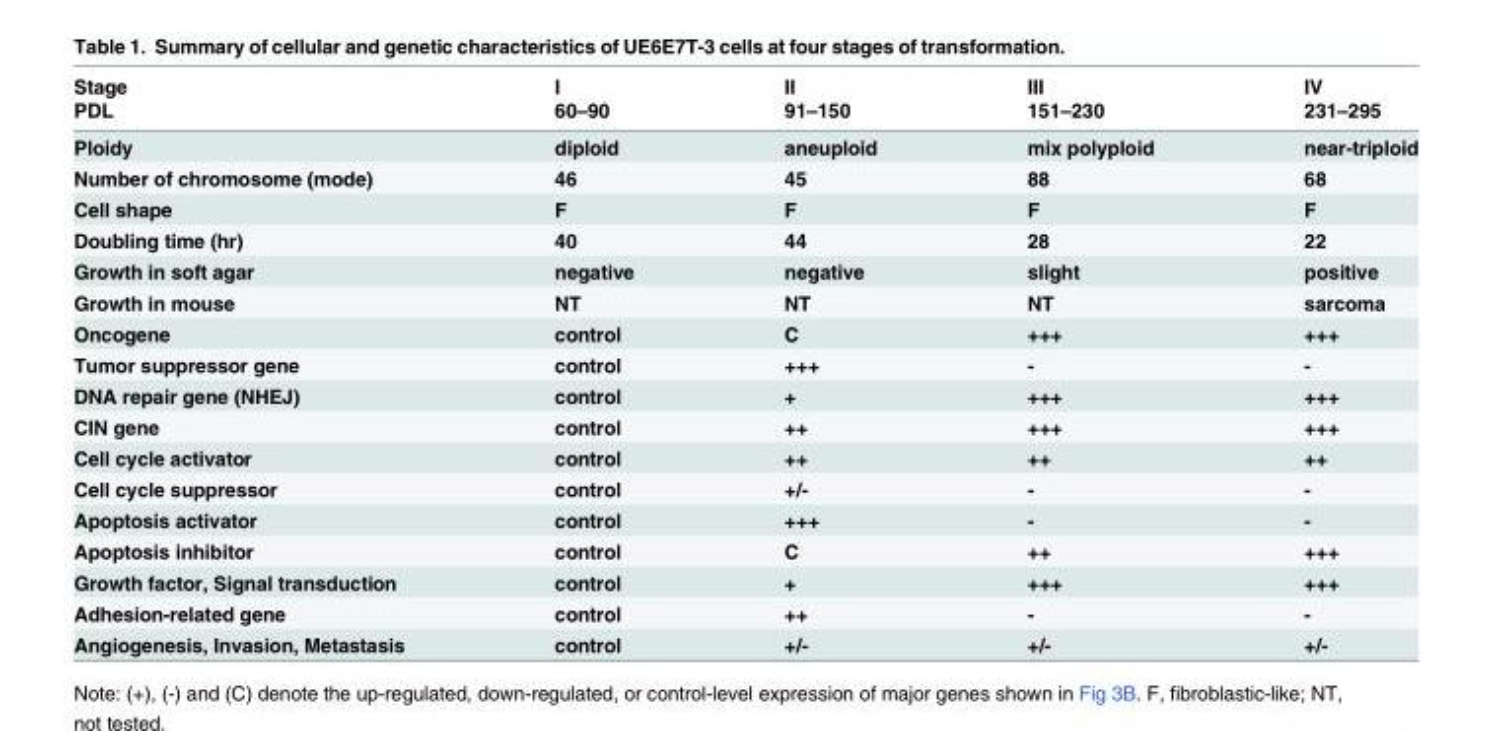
<table><thead><tr><td rowspan="2">Stage PDL</td><td rowspan="2">I 60–90</td><td rowspan="2">II 91–150</td><td rowspan="2">III 151–230</td><td rowspan="2">IV 231–295</td></tr><tr></tr></thead><tbody><tr><td>Ploidy</td><td>diploid</td><td>aneuploid</td><td>mix polyploid</td><td>near-triploid</td></tr><tr><td>Number of chromosome (mode)</td><td>46</td><td>45</td><td>88</td><td>68</td></tr><tr><td>Cell shape</td><td>F</td><td>F</td><td>F</td><td>F</td></tr><tr><td>Doubling time (hr)</td><td>40</td><td>44</td><td>28</td><td>22</td></tr><tr><td>Growth in soft agar</td><td>negative</td><td>negative</td><td>slight</td><td>positive</td></tr><tr><td>Growth in mouse</td><td>NT</td><td>NT</td><td>NT</td><td>sarcoma</td></tr><tr><td>Oncogene</td><td>control</td><td>C</td><td>+++</td><td>+++</td></tr><tr><td>Tumor suppressor gene</td><td>control</td><td>+++</td><td>-</td><td>-</td></tr><tr><td>DNA repair gene (NHEJ)</td><td>control</td><td>+</td><td>+++</td><td>+++</td></tr><tr><td>CIN gene</td><td>control</td><td>++</td><td>+++</td><td>+++</td></tr><tr><td>Cell cycle activator</td><td>control</td><td>++</td><td>++</td><td>++</td></tr><tr><td>Cell cycle suppressor</td><td>control</td><td>+/-</td><td>-</td><td>-</td></tr><tr><td>Apoptosis activator</td><td>control</td><td>+++</td><td>-</td><td>-</td></tr><tr><td>Apoptosis inhibitor</td><td>control</td><td>C</td><td>++</td><td>+++</td></tr><tr><td>Growth factor, Signal transduction</td><td>control</td><td>+</td><td>+++</td><td>+++</td></tr><tr><td>Adhesion-related gene</td><td>control</td><td>++</td><td>-</td><td>-</td></tr><tr><td>Angiogenesis, Invasion, Metastasis</td><td>control</td><td>+/-</td><td>+/-</td><td>+/-</td></tr></tbody></table>